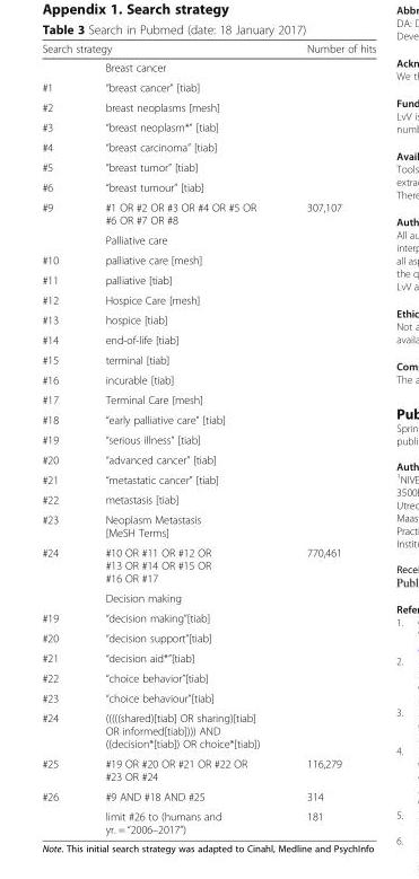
<table><thead><tr><td colspan="2">Search strategy</td><td rowspan="2">Number of hits</td></tr><tr><td></td><td>Breast cancer</td></tr></thead><tbody><tr><td>#1</td><td>“breast cancer” [tiab]</td><td></td></tr><tr><td>#2</td><td>breast neoplasms [mesh]</td><td></td></tr><tr><td>#3</td><td>“breast neoplasm*” [tiab]</td><td></td></tr><tr><td>#4</td><td>“breast carcinoma” [tiab]</td><td></td></tr><tr><td>#5</td><td>“breast tumor” [tiab]</td><td></td></tr><tr><td>#6</td><td>“breast tumour” [tiab]</td><td></td></tr><tr><td rowspan="2">#9</td><td>#1 OR #2 OR #3 OR #4 OR #5 OR #6 OR #7 OR #8</td><td>307,107</td></tr><tr><td>Palliative care</td><td></td></tr><tr><td>#10</td><td>palliative care [mesh]</td><td></td></tr><tr><td>#11</td><td>palliative [tiab]</td><td></td></tr><tr><td>#12</td><td>Hospice Care [mesh]</td><td></td></tr><tr><td>#13</td><td>hospice [tiab]</td><td></td></tr><tr><td>#14</td><td>end-of-life [tiab]</td><td></td></tr><tr><td>#15</td><td>terminal [tiab]</td><td></td></tr><tr><td>#16</td><td>incurable [tiab]</td><td></td></tr><tr><td>#17</td><td>Terminal Care [mesh]</td><td></td></tr><tr><td>#18</td><td>“early palliative care” [tiab]</td><td></td></tr><tr><td>#19</td><td>“serious illness” [tiab]</td><td></td></tr><tr><td>#20</td><td>“advanced cancer” [tiab]</td><td></td></tr><tr><td>#21</td><td>“metastatic cancer” [tiab]</td><td></td></tr><tr><td>#22</td><td>metastasis [tiab]</td><td></td></tr><tr><td>#23</td><td>Neoplasm Metastasis [MeSH Terms]</td><td></td></tr><tr><td rowspan="2">#24</td><td>#10 OR #11 OR #12 OR #13 OR #14 OR #15 OR #16 OR #17</td><td>770,461</td></tr><tr><td>Decision making</td><td></td></tr><tr><td>#19</td><td>“decision making”[tiab]</td><td></td></tr><tr><td>#20</td><td>“decision support”[tiab]</td><td></td></tr><tr><td>#21</td><td>“decision aid*”[tiab]</td><td></td></tr><tr><td>#22</td><td>“choice behavior”[tiab]</td><td></td></tr><tr><td>#23</td><td>“choice behaviour”[tiab]</td><td></td></tr><tr><td>#24</td><td>(((((shared)[tiab] OR sharing)[tiab] OR informed[tiab]))) AND ((decision*[tiab]) OR choice*[tiab])</td><td></td></tr><tr><td>#25</td><td>#19 OR #20 OR #21 OR #22 OR #23 OR #24</td><td>116,279</td></tr><tr><td rowspan="2">#26</td><td>#9 AND #18 AND #25</td><td>314</td></tr><tr><td>limit #26 to (humans and yr. = “2006–2017”)</td><td>181</td></tr></tbody></table>